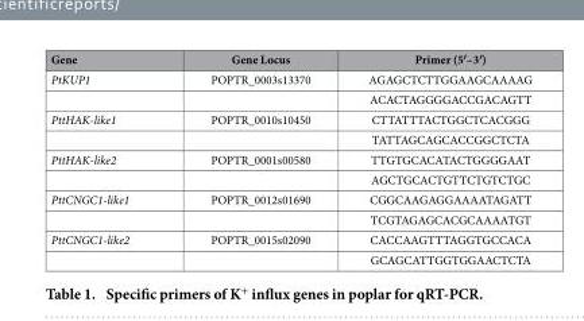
<table><thead><tr><td>Gene</td><td>Gene Locus</td><td>Primer (5′–3′)</td></tr></thead><tbody><tr><td rowspan="2">PtKUP1</td><td>POPTR_0003s13370</td><td>AGAGCTCTTGGAAGCAAAAG</td></tr><tr><td></td><td>ACACTAGGGGACCGACAGTT</td></tr><tr><td rowspan="2">PttHAK-like1</td><td>POPTR_0010s10450</td><td>CTTATTTACTGGCTCACGGG</td></tr><tr><td></td><td>TATTAGCAGCACCGGCTCTA</td></tr><tr><td rowspan="2">PttHAK-like2</td><td>POPTR_0001s00580</td><td>TTGTGCACATACTGGGGAAT</td></tr><tr><td></td><td>AGCTGCACTGTTCTGTCTGC</td></tr><tr><td rowspan="2">PttCNGC1-like1</td><td>POPTR_0012s01690</td><td>CGGCAAGAGGAAAATAGATT</td></tr><tr><td></td><td>TCGTAGAGCACGCAAAATGT</td></tr><tr><td rowspan="2">PttCNGC1-like2</td><td>POPTR_0015s02090</td><td>CACCAAGTTTAGGTGCCACA</td></tr><tr><td></td><td>GCAGCATTGGTGGAACTCTA</td></tr></tbody></table>